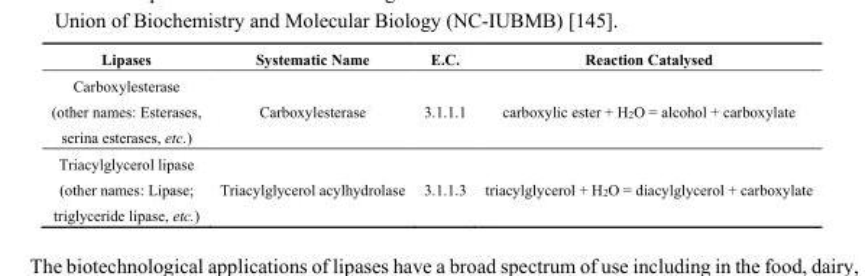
<table><thead><tr><td>Lipases</td><td>Systematic Name</td><td>E.C.</td><td>Reaction Catalysed</td></tr></thead><tbody><tr><td>Carboxylesterase (other names: Esterases, serina esterases, etc.)</td><td>Carboxylesterase</td><td>3.1.1.1</td><td>carboxylic ester + H<sub>2</sub>O = alcohol + carboxylate</td></tr><tr><td>Triacylglycerol lipase (other names: Lipase; triglyceride lipase, etc.)</td><td>Triacylglycerol acylhydrolase</td><td>3.1.1.3</td><td>triacylglycerol + H<sub>2</sub>O = diacylglycerol + carboxylate</td></tr></tbody></table>